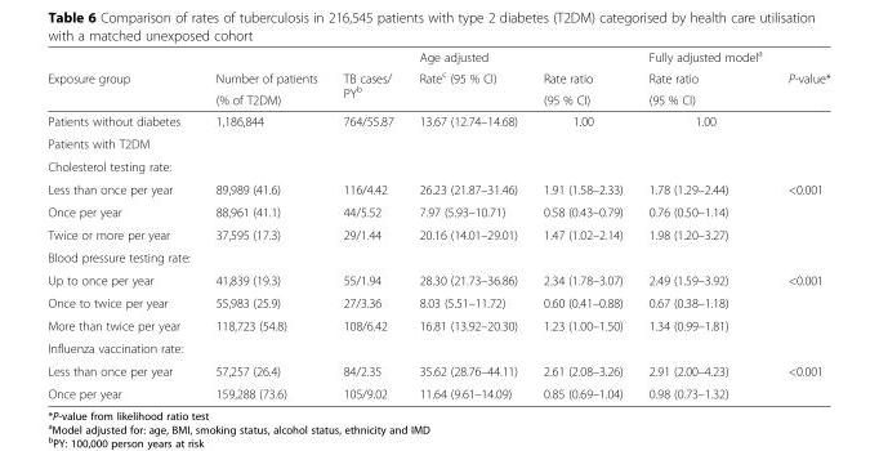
<table><thead><tr><td rowspan="3">Exposure group</td><td rowspan="3">Number of patients (% of T2DM)</td><td rowspan="3">TB cases/ PY<sup>b</sup></td><td rowspan="3">Age adjusted Rate<sup>c</sup> (95 % CI)</td><td rowspan="3">Rate ratio (95 % CI)</td><td rowspan="3">Fully adjusted model<sup>a</sup> Rate ratio (95 % CI)</td><td rowspan="3">P-value*</td></tr><tr></tr><tr></tr></thead><tbody><tr><td>Patients without diabetes</td><td>1,186,844</td><td>764/55.87</td><td>13.67 (12.74–14.68)</td><td>1.00</td><td>1.00</td><td></td></tr><tr><td colspan="7">Patients with T2DM</td></tr><tr><td colspan="7">Cholesterol testing rate:</td></tr><tr><td>Less than once per year</td><td>89,989 (41.6)</td><td>116/4.42</td><td>26.23 (21.87–31.46)</td><td>1.91 (1.58–2.33)</td><td>1.78 (1.29–2.44)</td><td>&lt;0.001</td></tr><tr><td>Once per year</td><td>88,961 (41.1)</td><td>44/5.52</td><td>7.97 (5.93–10.71)</td><td>0.58 (0.43–0.79)</td><td>0.76 (0.50–1.14)</td><td></td></tr><tr><td>Twice or more per year</td><td>37,595 (17.3)</td><td>29/1.44</td><td>20.16 (14.01–29.01)</td><td>1.47 (1.02–2.14)</td><td>1.98 (1.20–3.27)</td><td></td></tr><tr><td colspan="7">Blood pressure testing rate:</td></tr><tr><td>Up to once per year</td><td>41,839 (19.3)</td><td>55/1.94</td><td>28.30 (21.73–36.86)</td><td>2.34 (1.78–3.07)</td><td>2.49 (1.59–3.92)</td><td>&lt;0.001</td></tr><tr><td>Once to twice per year</td><td>55,983 (25.9)</td><td>27/3.36</td><td>8.03 (5.51–11.72)</td><td>0.60 (0.41–0.88)</td><td>0.67 (0.38–1.18)</td><td></td></tr><tr><td>More than twice per year</td><td>118,723 (54.8)</td><td>108/6.42</td><td>16.81 (13.92–20.30)</td><td>1.23 (1.00–1.50)</td><td>1.34 (0.99–1.81)</td><td></td></tr><tr><td colspan="7">Influenza vaccination rate:</td></tr><tr><td>Less than once per year</td><td>57,257 (26.4)</td><td>84/2.35</td><td>35.62 (28.76–44.11)</td><td>2.61 (2.08–3.26)</td><td>2.91 (2.00–4.23)</td><td>&lt;0.001</td></tr><tr><td>Once per year</td><td>159,288 (73.6)</td><td>105/9.02</td><td>11.64 (9.61–14.09)</td><td>0.85 (0.69–1.04)</td><td>0.98 (0.73–1.32)</td><td></td></tr></tbody></table>